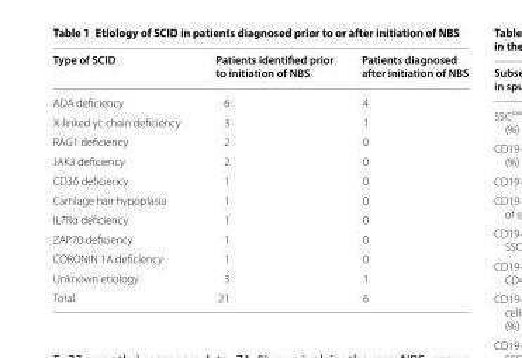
<table><thead><tr><td>Type of SCID</td><td>Patients identified prior to initiation of NBS</td><td>Patients diagnosed after initiation of NBS</td></tr></thead><tbody><tr><td>ADA deficiency</td><td>6</td><td>4</td></tr><tr><td>X‑linked γc chain deficiency</td><td>3</td><td>1</td></tr><tr><td>RAG1 deficiency</td><td>2</td><td>0</td></tr><tr><td>JAK3 deficiency</td><td>2</td><td>0</td></tr><tr><td>CD3δ deficiency</td><td>1</td><td>0</td></tr><tr><td>Cartilage hair hypoplasia</td><td>1</td><td>0</td></tr><tr><td>IL7Rα deficiency</td><td>1</td><td>0</td></tr><tr><td>ZAP70 deficiency</td><td>1</td><td>0</td></tr><tr><td>CORONIN 1A deficiency</td><td>1</td><td>0</td></tr><tr><td>Unknown etiology</td><td>3</td><td>1</td></tr><tr><td>Total</td><td>21</td><td>6</td></tr></tbody></table>